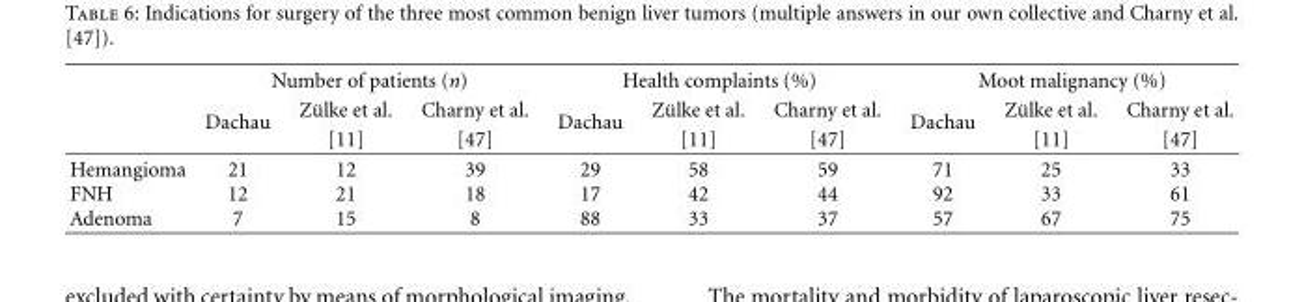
<table><thead><tr><td rowspan="3"></td><td colspan="3">Number of patients (n)</td><td colspan="3">Health complaints (%)</td><td colspan="3">Moot malignancy (%)</td></tr><tr><td rowspan="2">Dachau</td><td rowspan="2">Z¨ulke et al. [11]</td><td rowspan="2">Charny et al. [47]</td><td rowspan="2">Dachau</td><td rowspan="2">Z¨ulke et al. [11]</td><td rowspan="2">Charny et al. [47]</td><td rowspan="2">Dachau</td><td rowspan="2">Z¨ulke et al. [11]</td><td rowspan="2">Charny et al. [47]</td></tr><tr></tr></thead><tbody><tr><td>Hemangioma</td><td>21</td><td>12</td><td>39</td><td>29</td><td>58</td><td>59</td><td>71</td><td>25</td><td>33</td></tr><tr><td>FNH</td><td>12</td><td>21</td><td>18</td><td>17</td><td>42</td><td>44</td><td>92</td><td>33</td><td>61</td></tr><tr><td>Adenoma</td><td>7</td><td>15</td><td>8</td><td>88</td><td>33</td><td>37</td><td>57</td><td>67</td><td>75</td></tr></tbody></table>